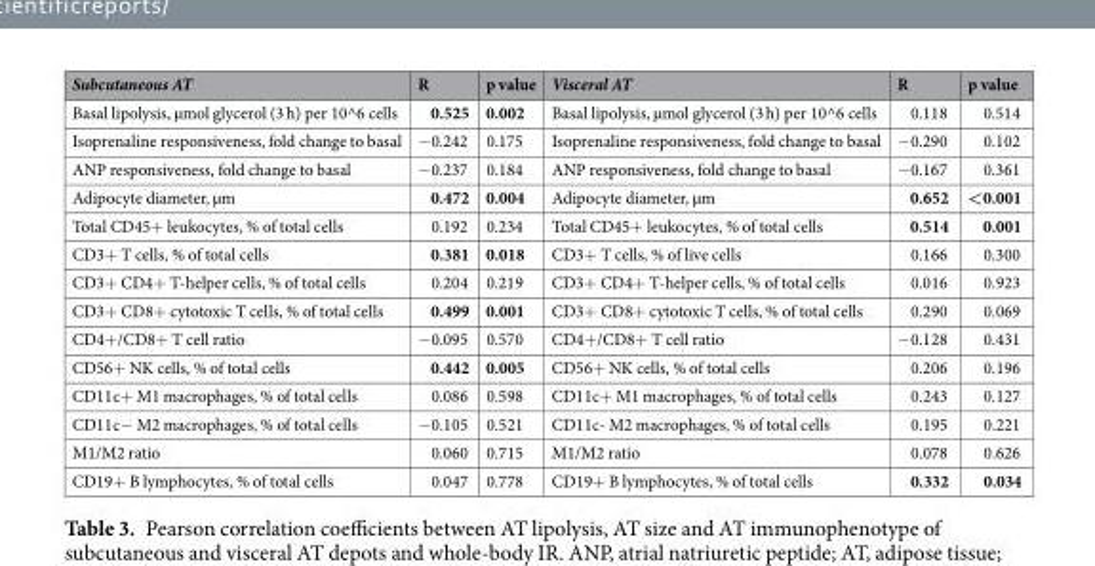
<table><thead><tr><td>Subcutaneous AT</td><td>R</td><td>p value</td><td>Visceral AT</td><td>R</td><td>p value</td></tr></thead><tbody><tr><td>Basal lipolysis, µmol glycerol (3 h) per 10^6 cells</td><td>0.525</td><td>0.002</td><td>Basal lipolysis, µmol glycerol (3 h) per 10^6 cells</td><td>0.118</td><td>0.514</td></tr><tr><td>Isoprenaline responsiveness, fold change to basal</td><td>−0.242</td><td>0.175</td><td>Isoprenaline responsiveness, fold change to basal</td><td>−0.290</td><td>0.102</td></tr><tr><td>ANP responsiveness, fold change to basal</td><td>−0.237</td><td>0.184</td><td>ANP responsiveness, fold change to basal</td><td>−0.167</td><td>0.361</td></tr><tr><td>Adipocyte diameter, µm</td><td>0.472</td><td>0.004</td><td>Adipocyte diameter, µm</td><td>0.652</td><td>&lt;0.001</td></tr><tr><td>Total CD45+ leukocytes, % of total cells</td><td>0.192</td><td>0.234</td><td>Total CD45+ leukocytes, % of total cells</td><td>0.514</td><td>0.001</td></tr><tr><td>CD3+ T cells, % of total cells</td><td>0.381</td><td>0.018</td><td>CD3+ T cells, % of live cells</td><td>0.166</td><td>0.300</td></tr><tr><td>CD3+ CD4+ T-helper cells, % of total cells</td><td>0.204</td><td>0.219</td><td>CD3+ CD4+ T-helper cells, % of total cells</td><td>0.016</td><td>0.923</td></tr><tr><td>CD3+ CD8+ cytotoxic T cells, % of total cells</td><td>0.499</td><td>0.001</td><td>CD3+ CD8+ cytotoxic T cells, % of total cells</td><td>0.290</td><td>0.069</td></tr><tr><td>CD4+/CD8+ T cell ratio</td><td>−0.095</td><td>0.570</td><td>CD4+/CD8+ T cell ratio</td><td>−0.128</td><td>0.431</td></tr><tr><td>CD56+ NK cells, % of total cells</td><td>0.442</td><td>0.005</td><td>CD56+ NK cells, % of total cells</td><td>0.206</td><td>0.196</td></tr><tr><td>CD11c+ M1 macrophages, % of total cells</td><td>0.086</td><td>0.598</td><td>CD11c+ M1 macrophages, % of total cells</td><td>0.243</td><td>0.127</td></tr><tr><td>CD11c− M2 macrophages, % of total cells</td><td>−0.105</td><td>0.521</td><td>CD11c- M2 macrophages, % of total cells</td><td>0.195</td><td>0.221</td></tr><tr><td>M1/M2 ratio</td><td>0.060</td><td>0.715</td><td>M1/M2 ratio</td><td>0.078</td><td>0.626</td></tr><tr><td>CD19+ B lymphocytes, % of total cells</td><td>0.047</td><td>0.778</td><td>CD19+ B lymphocytes, % of total cells</td><td>0.332</td><td>0.034</td></tr></tbody></table>